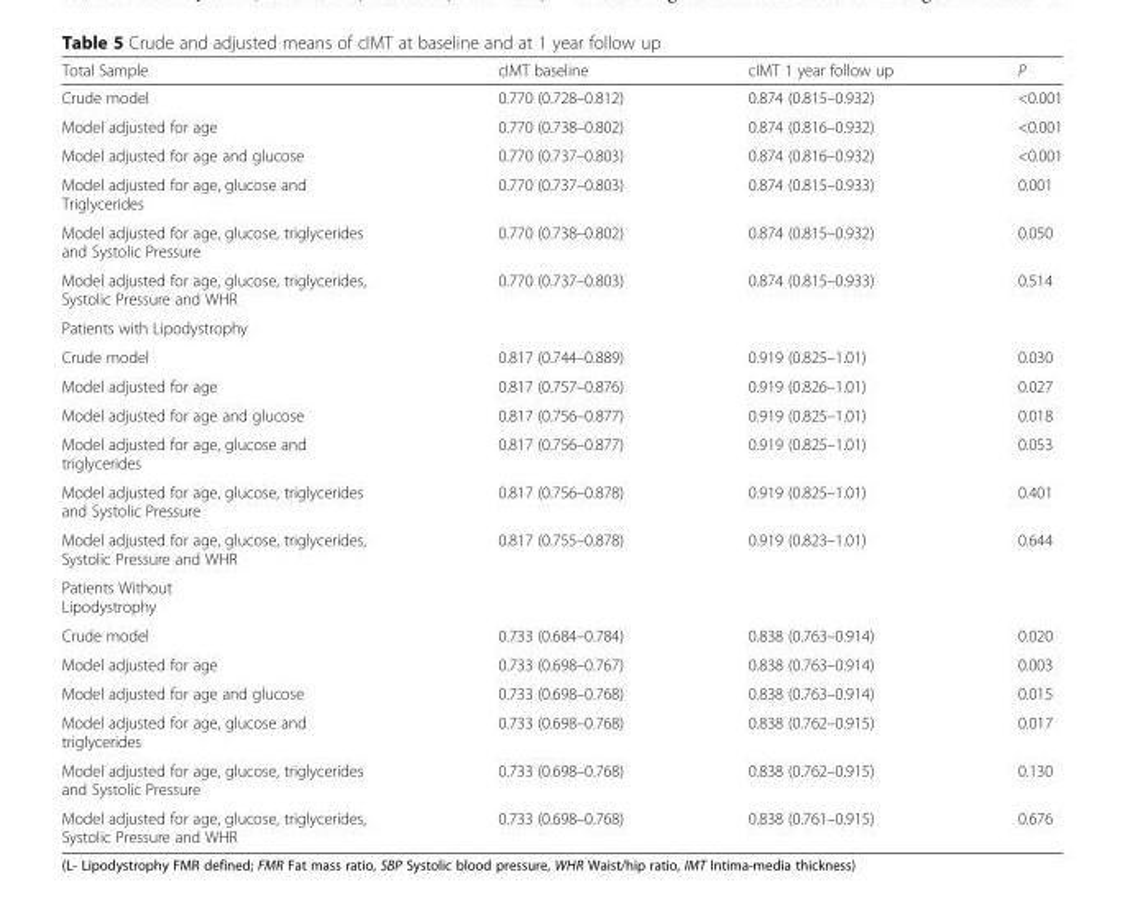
<table><thead><tr><td>Total Sample</td><td>cIMT baseline</td><td>cIMT 1 year follow up</td><td>P</td></tr></thead><tbody><tr><td>Crude model</td><td>0.770 (0.728–0.812)</td><td>0.874 (0.815–0.932)</td><td>&lt;0.001</td></tr><tr><td>Model adjusted for age</td><td>0.770 (0.738–0.802)</td><td>0.874 (0.816–0.932)</td><td>&lt;0.001</td></tr><tr><td>Model adjusted for age and glucose</td><td>0.770 (0.737–0.803)</td><td>0.874 (0.816–0.932)</td><td>&lt;0.001</td></tr><tr><td>Model adjusted for age, glucose and Triglycerides</td><td>0.770 (0.737–0.803)</td><td>0.874 (0.815–0.933)</td><td>0.001</td></tr><tr><td>Model adjusted for age, glucose, triglycerides and Systolic Pressure</td><td>0.770 (0.738–0.802)</td><td>0.874 (0.815–0.932)</td><td>0.050</td></tr><tr><td>Model adjusted for age, glucose, triglycerides, Systolic Pressure and WHR</td><td>0.770 (0.737–0.803)</td><td>0.874 (0.815–0.933)</td><td>0.514</td></tr><tr><td colspan="4">Patients with Lipodystrophy</td></tr><tr><td>Crude model</td><td>0.817 (0.744–0.889)</td><td>0.919 (0.825–1.01)</td><td>0.030</td></tr><tr><td>Model adjusted for age</td><td>0.817 (0.757–0.876)</td><td>0.919 (0.826–1.01)</td><td>0.027</td></tr><tr><td>Model adjusted for age and glucose</td><td>0.817 (0.756–0.877)</td><td>0.919 (0.825–1.01)</td><td>0.018</td></tr><tr><td>Model adjusted for age, glucose and triglycerides</td><td>0.817 (0.756–0.877)</td><td>0.919 (0.825–1.01)</td><td>0.053</td></tr><tr><td>Model adjusted for age, glucose, triglycerides and Systolic Pressure</td><td>0.817 (0.756–0.878)</td><td>0.919 (0.825–1.01)</td><td>0.401</td></tr><tr><td>Model adjusted for age, glucose, triglycerides, Systolic Pressure and WHR</td><td>0.817 (0.755–0.878)</td><td>0.919 (0.823–1.01)</td><td>0.644</td></tr><tr><td colspan="4">Patients Without Lipodystrophy</td></tr><tr><td>Crude model</td><td>0.733 (0.684–0.784)</td><td>0.838 (0.763–0.914)</td><td>0.020</td></tr><tr><td>Model adjusted for age</td><td>0.733 (0.698–0.767)</td><td>0.838 (0.763–0.914)</td><td>0.003</td></tr><tr><td>Model adjusted for age and glucose</td><td>0.733 (0.698–0.768)</td><td>0.838 (0.763–0.914)</td><td>0.015</td></tr><tr><td>Model adjusted for age, glucose and triglycerides</td><td>0.733 (0.698–0.768)</td><td>0.838 (0.762–0.915)</td><td>0.017</td></tr><tr><td>Model adjusted for age, glucose, triglycerides and Systolic Pressure</td><td>0.733 (0.698–0.768)</td><td>0.838 (0.762–0.915)</td><td>0.130</td></tr><tr><td>Model adjusted for age, glucose, triglycerides, Systolic Pressure and WHR</td><td>0.733 (0.698–0.768)</td><td>0.838 (0.761–0.915)</td><td>0.676</td></tr></tbody></table>